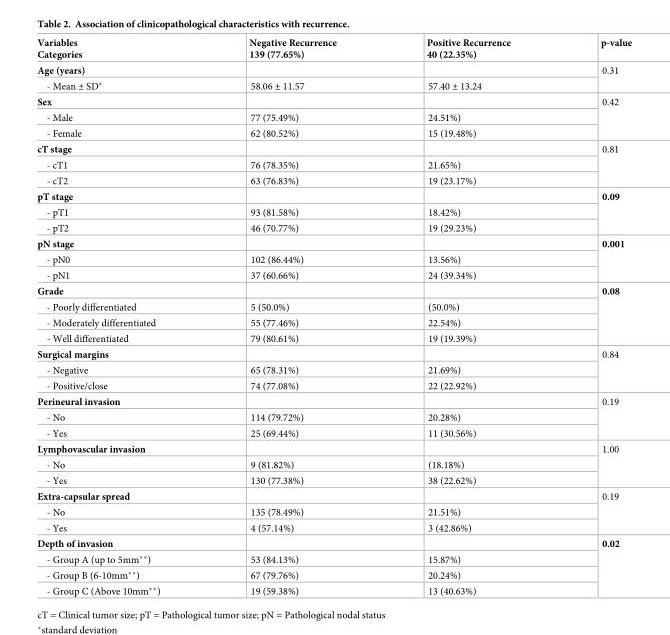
<table><thead><tr><td>Variables Categories</td><td>Negative Recurrence 139 (77.65%)</td><td>Positive Recurrence 40 (22.35%)</td><td>p-value</td></tr></thead><tbody><tr><td colspan="3">Age (years)</td><td rowspan="2">0.31</td></tr><tr><td>- Mean ± SD*</td><td>58.06 ± 11.57</td><td>57.40 ± 13.24</td></tr><tr><td colspan="3">Sex</td><td rowspan="3">0.42</td></tr><tr><td>- Male</td><td>77 (75.49%)</td><td>24.51%)</td></tr><tr><td>- Female</td><td>62 (80.52%)</td><td>15 (19.48%)</td></tr><tr><td colspan="3">cT stage</td><td rowspan="3">0.81</td></tr><tr><td>- cT1</td><td>76 (78.35%)</td><td>21.65%)</td></tr><tr><td>- cT2</td><td>63 (76.83%)</td><td>19 (23.17%)</td></tr><tr><td colspan="3">pT stage</td><td rowspan="3">0.09</td></tr><tr><td>- pT1</td><td>93 (81.58%)</td><td>18.42%)</td></tr><tr><td>- pT2</td><td>46 (70.77%)</td><td>19 (29.23%)</td></tr><tr><td colspan="3">pN stage</td><td rowspan="3">0.001</td></tr><tr><td>- pN0</td><td>102 (86.44%)</td><td>13.56%)</td></tr><tr><td>- pN1</td><td>37 (60.66%)</td><td>24 (39.34%)</td></tr><tr><td colspan="3">Grade</td><td rowspan="4">0.08</td></tr><tr><td>- Poorly differentiated</td><td>5 (50.0%)</td><td>(50.0%)</td></tr><tr><td>- Moderately differentiated</td><td>55 (77.46%)</td><td>22.54%)</td></tr><tr><td>- Well differentiated</td><td>79 (80.61%)</td><td>19 (19.39%)</td></tr><tr><td colspan="3">Surgical margins</td><td rowspan="3">0.84</td></tr><tr><td>- Negative</td><td>65 (78.31%)</td><td>21.69%)</td></tr><tr><td>- Positive/close</td><td>74 (77.08%)</td><td>22 (22.92%)</td></tr><tr><td colspan="3">Perineural invasion</td><td rowspan="3">0.19</td></tr><tr><td>- No</td><td>114 (79.72%)</td><td>20.28%)</td></tr><tr><td>- Yes</td><td>25 (69.44%)</td><td>11 (30.56%)</td></tr><tr><td colspan="3">Lymphovascular invasion</td><td rowspan="3">1.00</td></tr><tr><td>- No</td><td>9 (81.82%)</td><td>(18.18%)</td></tr><tr><td>- Yes</td><td>130 (77.38%)</td><td>38 (22.62%)</td></tr><tr><td colspan="3">Extra-capsular spread</td><td rowspan="3">0.19</td></tr><tr><td>- No</td><td>135 (78.49%)</td><td>21.51%)</td></tr><tr><td>- Yes</td><td>4 (57.14%)</td><td>3 (42.86%)</td></tr><tr><td colspan="3">Depth of invasion</td><td rowspan="4">0.02</td></tr><tr><td>- Group A (up to 5mm**)</td><td>53 (84.13%)</td><td>15.87%)</td></tr><tr><td>- Group B (6-10mm**)</td><td>67 (79.76%)</td><td>20.24%)</td></tr><tr><td>- Group C (Above 10mm**)</td><td>19 (59.38%)</td><td>13 (40.63%)</td></tr></tbody></table>